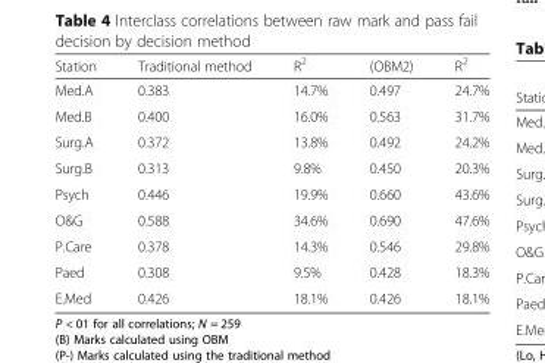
<table><thead><tr><td>Station</td><td>Traditional method</td><td>R<sup>2</sup></td><td>(OBM2)</td><td>R<sup>2</sup></td></tr></thead><tbody><tr><td>Med.A</td><td>0.383</td><td>14.7%</td><td>0.497</td><td>24.7%</td></tr><tr><td>Med.B</td><td>0.400</td><td>16.0%</td><td>0.563</td><td>31.7%</td></tr><tr><td>Surg.A</td><td>0.372</td><td>13.8%</td><td>0.492</td><td>24.2%</td></tr><tr><td>Surg.B</td><td>0.313</td><td>9.8%</td><td>0.450</td><td>20.3%</td></tr><tr><td>Psych</td><td>0.446</td><td>19.9%</td><td>0.660</td><td>43.6%</td></tr><tr><td>O&amp;G</td><td>0.588</td><td>34.6%</td><td>0.690</td><td>47.6%</td></tr><tr><td>P.Care</td><td>0.378</td><td>14.3%</td><td>0.546</td><td>29.8%</td></tr><tr><td>Paed</td><td>0.308</td><td>9.5%</td><td>0.428</td><td>18.3%</td></tr><tr><td>E.Med</td><td>0.426</td><td>18.1%</td><td>0.426</td><td>18.1%</td></tr></tbody></table>